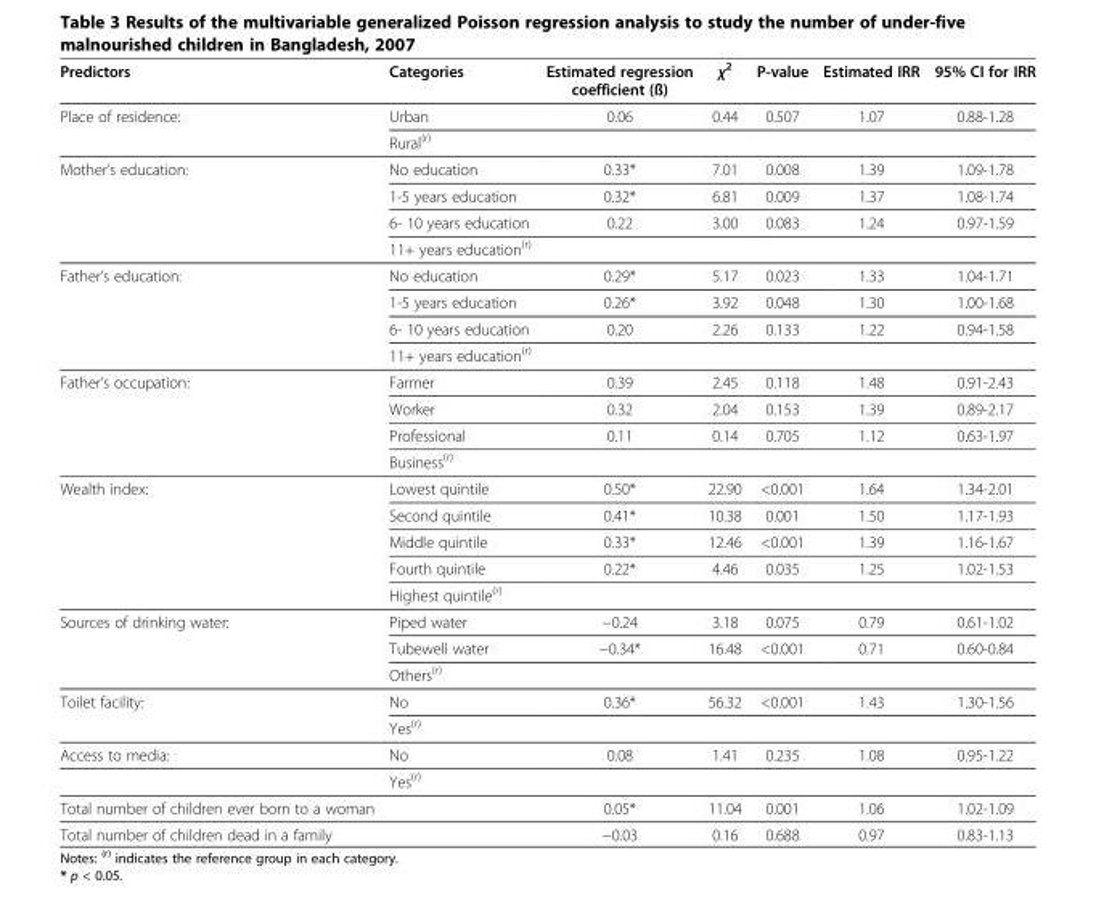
<table><thead><tr><td>Predictors</td><td>Categories</td><td>Estimated regression coefficient (ß)</td><td>χ<sup>2</sup></td><td>P-value</td><td>Estimated IRR</td><td>95% CI for IRR</td></tr></thead><tbody><tr><td rowspan="2">Place of residence:</td><td>Urban</td><td>0.06</td><td>0.44</td><td>0.507</td><td>1.07</td><td>0.88-1.28</td></tr><tr><td>Rural<sup>(r)</sup></td><td></td><td></td><td></td><td></td><td></td></tr><tr><td rowspan="4">Mother’s education:</td><td>No education</td><td>0.33*</td><td>7.01</td><td>0.008</td><td>1.39</td><td>1.09-1.78</td></tr><tr><td>1-5 years education</td><td>0.32*</td><td>6.81</td><td>0.009</td><td>1.37</td><td>1.08-1.74</td></tr><tr><td>6- 10 years education</td><td>0.22</td><td>3.00</td><td>0.083</td><td>1.24</td><td>0.97-1.59</td></tr><tr><td>11+ years education<sup>(r)</sup></td><td></td><td></td><td></td><td></td><td></td></tr><tr><td rowspan="4">Father’s education:</td><td>No education</td><td>0.29*</td><td>5.17</td><td>0.023</td><td>1.33</td><td>1.04-1.71</td></tr><tr><td>1-5 years education</td><td>0.26*</td><td>3.92</td><td>0.048</td><td>1.30</td><td>1.00-1.68</td></tr><tr><td>6- 10 years education</td><td>0.20</td><td>2.26</td><td>0.133</td><td>1.22</td><td>0.94-1.58</td></tr><tr><td>11+ years education<sup>(r)</sup></td><td></td><td></td><td></td><td></td><td></td></tr><tr><td rowspan="4">Father’s occupation:</td><td>Farmer</td><td>0.39</td><td>2.45</td><td>0.118</td><td>1.48</td><td>0.91-2.43</td></tr><tr><td>Worker</td><td>0.32</td><td>2.04</td><td>0.153</td><td>1.39</td><td>0.89-2.17</td></tr><tr><td>Professional</td><td>0.11</td><td>0.14</td><td>0.705</td><td>1.12</td><td>0.63-1.97</td></tr><tr><td>Business<sup>(r)</sup></td><td></td><td></td><td></td><td></td><td></td></tr><tr><td rowspan="5">Wealth index:</td><td>Lowest quintile</td><td>0.50*</td><td>22.90</td><td>&lt;0.001</td><td>1.64</td><td>1.34-2.01</td></tr><tr><td>Second quintile</td><td>0.41*</td><td>10.38</td><td>0.001</td><td>1.50</td><td>1.17-1.93</td></tr><tr><td>Middle quintile</td><td>0.33*</td><td>12.46</td><td>&lt;0.001</td><td>1.39</td><td>1.16-1.67</td></tr><tr><td>Fourth quintile</td><td>0.22*</td><td>4.46</td><td>0.035</td><td>1.25</td><td>1.02-1.53</td></tr><tr><td>Highest quintile<sup>(r)</sup></td><td></td><td></td><td></td><td></td><td></td></tr><tr><td rowspan="3">Sources of drinking water:</td><td>Piped water</td><td>−0.24</td><td>3.18</td><td>0.075</td><td>0.79</td><td>0.61-1.02</td></tr><tr><td>Tubewell water</td><td>−0.34*</td><td>16.48</td><td>&lt;0.001</td><td>0.71</td><td>0.60-0.84</td></tr><tr><td>Others<sup>(r)</sup></td><td></td><td></td><td></td><td></td><td></td></tr><tr><td rowspan="2">Toilet facility:</td><td>No</td><td>0.36*</td><td>56.32</td><td>&lt;0.001</td><td>1.43</td><td>1.30-1.56</td></tr><tr><td>Yes<sup>(r)</sup></td><td></td><td></td><td></td><td></td><td></td></tr><tr><td rowspan="2">Access to media:</td><td>No</td><td>0.08</td><td>1.41</td><td>0.235</td><td>1.08</td><td>0.95-1.22</td></tr><tr><td>Yes<sup>(r)</sup></td><td></td><td></td><td></td><td></td><td></td></tr><tr><td>Total number of children ever born to a woman</td><td></td><td>0.05*</td><td>11.04</td><td>0.001</td><td>1.06</td><td>1.02-1.09</td></tr><tr><td>Total number of children dead in a family</td><td></td><td>−0.03</td><td>0.16</td><td>0.688</td><td>0.97</td><td>0.83-1.13</td></tr></tbody></table>